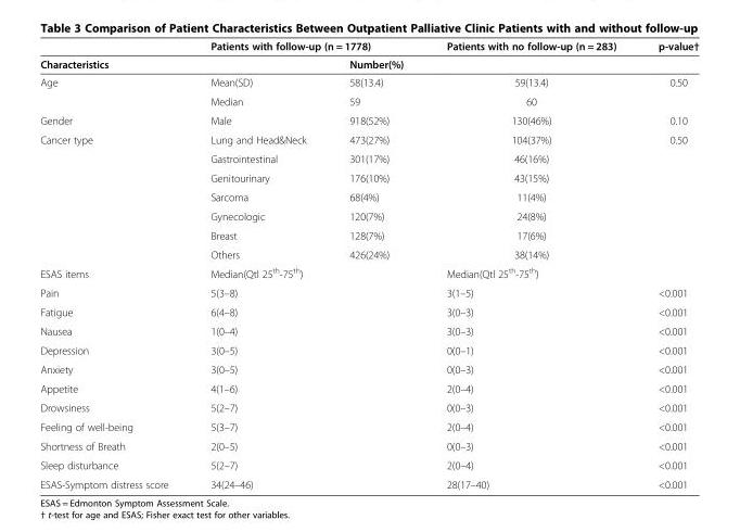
<table><thead><tr><td rowspan="2">Characteristics</td><td colspan="2">Patients with follow-up (n = 1778)</td><td rowspan="2">Patients with no follow-up (n = 283)</td><td rowspan="2">p-value†</td></tr><tr><td></td><td>Number(%)</td></tr></thead><tbody><tr><td rowspan="2">Age</td><td>Mean(SD)</td><td>58(13.4)</td><td>59(13.4)</td><td>0.50</td></tr><tr><td>Median</td><td>59</td><td>60</td><td></td></tr><tr><td>Gender</td><td>Male</td><td>918(52%)</td><td>130(46%)</td><td>0.10</td></tr><tr><td rowspan="7">Cancer type</td><td>Lung and Head&amp;Neck</td><td>473(27%)</td><td>104(37%)</td><td>0.50</td></tr><tr><td>Gastrointestinal</td><td>301(17%)</td><td>46(16%)</td><td></td></tr><tr><td>Genitourinary</td><td>176(10%)</td><td>43(15%)</td><td></td></tr><tr><td>Sarcoma</td><td>68(4%)</td><td>11(4%)</td><td></td></tr><tr><td>Gynecologic</td><td>120(7%)</td><td>24(8%)</td><td></td></tr><tr><td>Breast</td><td>128(7%)</td><td>17(6%)</td><td></td></tr><tr><td>Others</td><td>426(24%)</td><td>38(14%)</td><td></td></tr><tr><td>ESAS items</td><td colspan="2">Median(Qtl 25<sup>th</sup>-75<sup>th</sup>)</td><td>Median(Qtl 25<sup>th</sup>-75<sup>th</sup>)</td><td></td></tr><tr><td>Pain</td><td colspan="2">5(3–8)</td><td>3(1–5)</td><td>&lt;0.001</td></tr><tr><td>Fatigue</td><td colspan="2">6(4–8)</td><td>3(0–3)</td><td>&lt;0.001</td></tr><tr><td>Nausea</td><td colspan="2">1(0–4)</td><td>3(0–3)</td><td>&lt;0.001</td></tr><tr><td>Depression</td><td colspan="2">3(0–5)</td><td>0(0–1)</td><td>&lt;0.001</td></tr><tr><td>Anxiety</td><td colspan="2">3(0–5)</td><td>0(0–3)</td><td>&lt;0.001</td></tr><tr><td>Appetite</td><td colspan="2">4(1–6)</td><td>2(0–4)</td><td>&lt;0.001</td></tr><tr><td>Drowsiness</td><td colspan="2">5(2–7)</td><td>0(0–3)</td><td>&lt;0.001</td></tr><tr><td>Feeling of well-being</td><td colspan="2">5(3–7)</td><td>2(0–4)</td><td>&lt;0.001</td></tr><tr><td>Shortness of Breath</td><td colspan="2">2(0–5)</td><td>0(0–3)</td><td>&lt;0.001</td></tr><tr><td>Sleep disturbance</td><td colspan="2">5(2–7)</td><td>2(0–4)</td><td>&lt;0.001</td></tr><tr><td>ESAS-Symptom distress score</td><td colspan="2">34(24–46)</td><td>28(17–40)</td><td>&lt;0.001</td></tr></tbody></table>